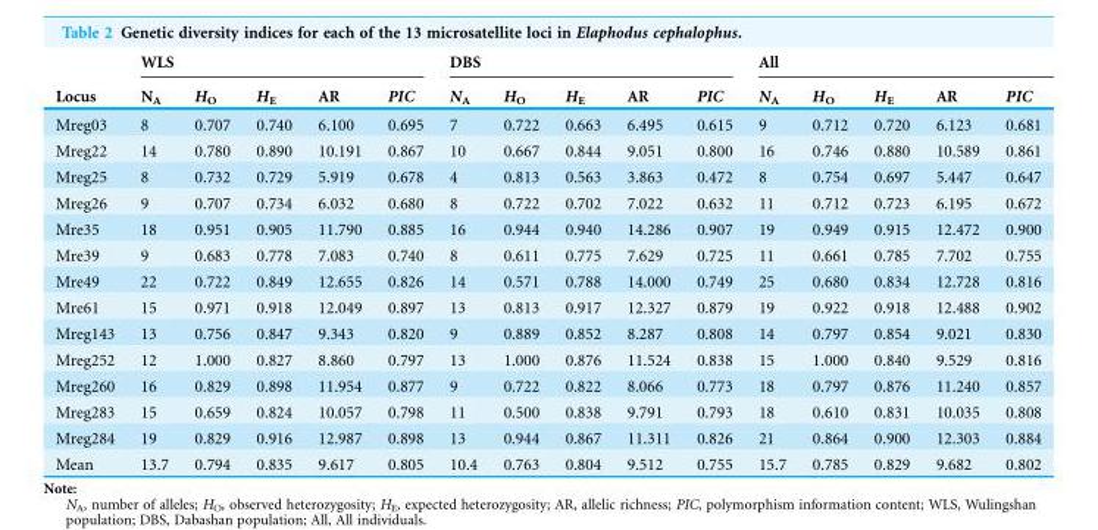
<table><thead><tr><td rowspan="2">Locus</td><td colspan="5">WLS</td><td colspan="5">DBS</td><td colspan="5">All</td></tr><tr><td>N<sub>A</sub></td><td>H<sub>O</sub></td><td>H<sub>E</sub></td><td>AR</td><td>PIC</td><td>N<sub>A</sub></td><td>H<sub>O</sub></td><td>H<sub>E</sub></td><td>AR</td><td>PIC</td><td>N<sub>A</sub></td><td>H<sub>O</sub></td><td>H<sub>E</sub></td><td>AR</td><td>PIC</td></tr></thead><tbody><tr><td>Mreg03</td><td>8</td><td>0.707</td><td>0.740</td><td>6.100</td><td>0.695</td><td>7</td><td>0.722</td><td>0.663</td><td>6.495</td><td>0.615</td><td>9</td><td>0.712</td><td>0.720</td><td>6.123</td><td>0.681</td></tr><tr><td>Mreg22</td><td>14</td><td>0.780</td><td>0.890</td><td>10.191</td><td>0.867</td><td>10</td><td>0.667</td><td>0.844</td><td>9.051</td><td>0.800</td><td>16</td><td>0.746</td><td>0.880</td><td>10.589</td><td>0.861</td></tr><tr><td>Mreg25</td><td>8</td><td>0.732</td><td>0.729</td><td>5.919</td><td>0.678</td><td>4</td><td>0.813</td><td>0.563</td><td>3.863</td><td>0.472</td><td>8</td><td>0.754</td><td>0.697</td><td>5.447</td><td>0.647</td></tr><tr><td>Mreg26</td><td>9</td><td>0.707</td><td>0.734</td><td>6.032</td><td>0.680</td><td>8</td><td>0.722</td><td>0.702</td><td>7.022</td><td>0.632</td><td>11</td><td>0.712</td><td>0.723</td><td>6.195</td><td>0.672</td></tr><tr><td>Mre35</td><td>18</td><td>0.951</td><td>0.905</td><td>11.790</td><td>0.885</td><td>16</td><td>0.944</td><td>0.940</td><td>14.286</td><td>0.907</td><td>19</td><td>0.949</td><td>0.915</td><td>12.472</td><td>0.900</td></tr><tr><td>Mre39</td><td>9</td><td>0.683</td><td>0.778</td><td>7.083</td><td>0.740</td><td>8</td><td>0.611</td><td>0.775</td><td>7.629</td><td>0.725</td><td>11</td><td>0.661</td><td>0.785</td><td>7.702</td><td>0.755</td></tr><tr><td>Mre49</td><td>22</td><td>0.722</td><td>0.849</td><td>12.655</td><td>0.826</td><td>14</td><td>0.571</td><td>0.788</td><td>14.000</td><td>0.749</td><td>25</td><td>0.680</td><td>0.834</td><td>12.728</td><td>0.816</td></tr><tr><td>Mre61</td><td>15</td><td>0.971</td><td>0.918</td><td>12.049</td><td>0.897</td><td>13</td><td>0.813</td><td>0.917</td><td>12.327</td><td>0.879</td><td>19</td><td>0.922</td><td>0.918</td><td>12.488</td><td>0.902</td></tr><tr><td>Mreg143</td><td>13</td><td>0.756</td><td>0.847</td><td>9.343</td><td>0.820</td><td>9</td><td>0.889</td><td>0.852</td><td>8.287</td><td>0.808</td><td>14</td><td>0.797</td><td>0.854</td><td>9.021</td><td>0.830</td></tr><tr><td>Mreg252</td><td>12</td><td>1.000</td><td>0.827</td><td>8.860</td><td>0.797</td><td>13</td><td>1.000</td><td>0.876</td><td>11.524</td><td>0.838</td><td>15</td><td>1.000</td><td>0.840</td><td>9.529</td><td>0.816</td></tr><tr><td>Mreg260</td><td>16</td><td>0.829</td><td>0.898</td><td>11.954</td><td>0.877</td><td>9</td><td>0.722</td><td>0.822</td><td>8.066</td><td>0.773</td><td>18</td><td>0.797</td><td>0.876</td><td>11.240</td><td>0.857</td></tr><tr><td>Mreg283</td><td>15</td><td>0.659</td><td>0.824</td><td>10.057</td><td>0.798</td><td>11</td><td>0.500</td><td>0.838</td><td>9.791</td><td>0.793</td><td>18</td><td>0.610</td><td>0.831</td><td>10.035</td><td>0.808</td></tr><tr><td>Mreg284</td><td>19</td><td>0.829</td><td>0.916</td><td>12.987</td><td>0.898</td><td>13</td><td>0.944</td><td>0.867</td><td>11.311</td><td>0.826</td><td>21</td><td>0.864</td><td>0.900</td><td>12.303</td><td>0.884</td></tr><tr><td>Mean</td><td>13.7</td><td>0.794</td><td>0.835</td><td>9.617</td><td>0.805</td><td>10.4</td><td>0.763</td><td>0.804</td><td>9.512</td><td>0.755</td><td>15.7</td><td>0.785</td><td>0.829</td><td>9.682</td><td>0.802</td></tr></tbody></table>